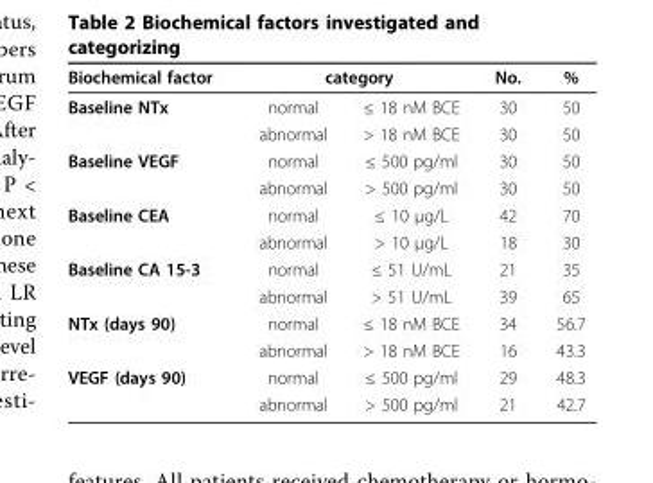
<table><thead><tr><td rowspan="2">Biochemical factor Baseline NTx</td><td colspan="2">category</td><td rowspan="2">No. 30</td><td rowspan="2">% 50</td></tr><tr><td>normal</td><td>≤ 18 nM BCE</td></tr></thead><tbody><tr><td></td><td>abnormal</td><td>&gt; 18 nM BCE</td><td>30</td><td>50</td></tr><tr><td rowspan="2">Baseline VEGF</td><td>normal</td><td>≤ 500 pg/ml</td><td>30</td><td>50</td></tr><tr><td>abnormal</td><td>&gt; 500 pg/ml</td><td>30</td><td>50</td></tr><tr><td rowspan="2">Baseline CEA</td><td>normal</td><td>≤ 10 μg/L</td><td>42</td><td>70</td></tr><tr><td>abnormal</td><td>&gt; 10 μg/L</td><td>18</td><td>30</td></tr><tr><td rowspan="2">Baseline CA 15-3</td><td>normal</td><td>≤ 51 U/mL</td><td>21</td><td>35</td></tr><tr><td>abnormal</td><td>&gt; 51 U/mL</td><td>39</td><td>65</td></tr><tr><td rowspan="2">NTx (days 90)</td><td>normal</td><td>≤ 18 nM BCE</td><td>34</td><td>56.7</td></tr><tr><td>abnormal</td><td>&gt; 18 nM BCE</td><td>16</td><td>43.3</td></tr><tr><td rowspan="2">VEGF (days 90)</td><td>normal</td><td>≤ 500 pg/ml</td><td>29</td><td>48.3</td></tr><tr><td>abnormal</td><td>&gt; 500 pg/ml</td><td>21</td><td>42.7</td></tr></tbody></table>